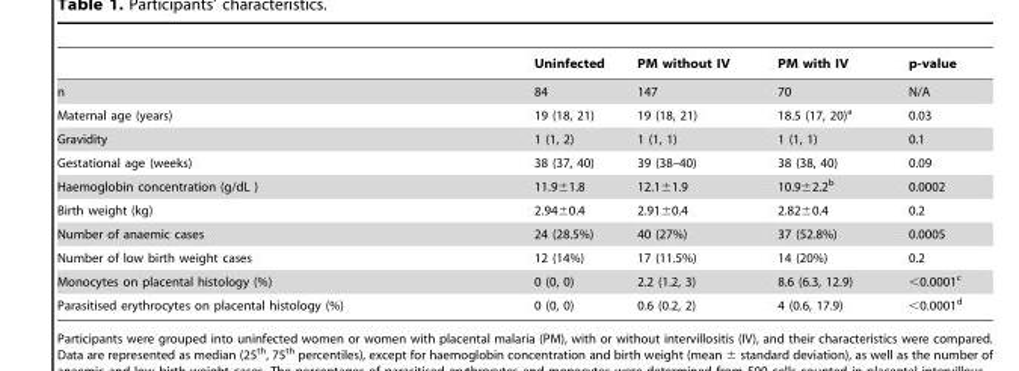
<table><thead><tr><td></td><td>Uninfected</td><td>PM without IV</td><td>PM with IV</td><td>p-value</td></tr></thead><tbody><tr><td>n</td><td>84</td><td>147</td><td>70</td><td>N/A</td></tr><tr><td>Maternal age (years)</td><td>19 (18, 21)</td><td>19 (18, 21)</td><td>18.5 (17, 20)<sup>a</sup></td><td>0.03</td></tr><tr><td>Gravidity</td><td>1 (1, 2)</td><td>1 (1, 1)</td><td>1 (1, 1)</td><td>0.1</td></tr><tr><td>Gestational age (weeks)</td><td>38 (37, 40)</td><td>39 (38–40)</td><td>38 (38, 40)</td><td>0.09</td></tr><tr><td>Haemoglobin concentration (g/dL )</td><td>11.9±1.8</td><td>12.1±1.9</td><td>10.9±2.2<sup>b</sup></td><td>0.0002</td></tr><tr><td>Birth weight (kg)</td><td>2.94±0.4</td><td>2.91±0.4</td><td>2.82±0.4</td><td>0.2</td></tr><tr><td>Number of anaemic cases</td><td>24 (28.5%)</td><td>40 (27%)</td><td>37 (52.8%)</td><td>0.0005</td></tr><tr><td>Number of low birth weight cases</td><td>12 (14%)</td><td>17 (11.5%)</td><td>14 (20%)</td><td>0.2</td></tr><tr><td>Monocytes on placental histology (%)</td><td>0 (0, 0)</td><td>2.2 (1.2, 3)</td><td>8.6 (6.3, 12.9)</td><td>&lt;0.0001<sup>c</sup></td></tr><tr><td>Parasitised erythrocytes on placental histology (%)</td><td>0 (0, 0)</td><td>0.6 (0.2, 2)</td><td>4 (0.6, 17.9)</td><td>&lt;0.0001<sup>d</sup></td></tr></tbody></table>